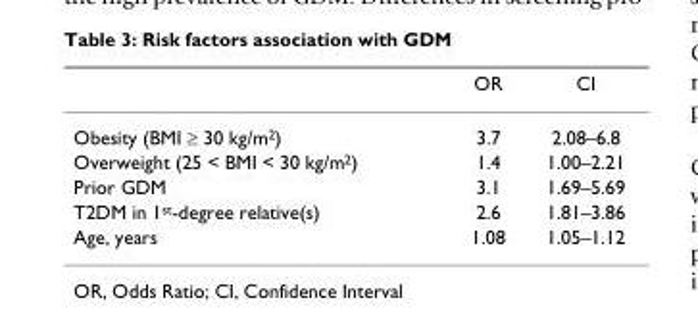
<table><thead><tr><td></td><td>OR</td><td>CI</td></tr></thead><tbody><tr><td>Obesity (BMI ≥ 30 kg/m<sup>2</sup>)</td><td>3.7</td><td>2.08–6.8</td></tr><tr><td>Overweight (25 &lt; BMI &lt; 30 kg/m<sup>2</sup>)</td><td>1.4</td><td>1.00–2.21</td></tr><tr><td>Prior GDM</td><td>3.1</td><td>1.69–5.69</td></tr><tr><td>T2DM in 1<sup>st</sup>-degree relative(s)</td><td>2.6</td><td>1.81–3.86</td></tr><tr><td>Age, years</td><td>1.08</td><td>1.05–1.12</td></tr></tbody></table>